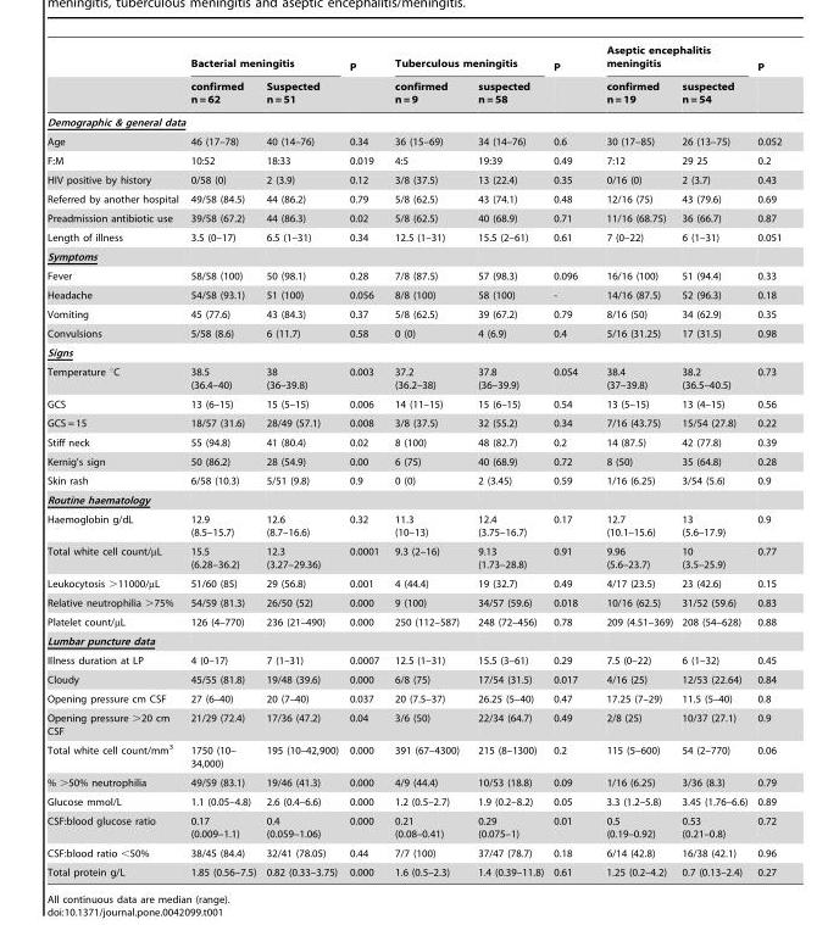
<table><thead><tr><td rowspan="2"></td><td colspan="2">Bacterial meningitis</td><td rowspan="2">P</td><td colspan="2">Tuberculous meningitis</td><td rowspan="2">P</td><td colspan="2">Aseptic encephalitis meningitis</td><td rowspan="2">P</td></tr><tr><td>confirmed n = 62</td><td>Suspected n = 51</td><td>confirmed n = 9</td><td>suspected n = 58</td><td>confirmed n = 19</td><td>suspected n = 54</td></tr></thead><tbody><tr><td colspan="10">Demographic &amp; general data</td></tr><tr><td>Age</td><td>46 (17–78)</td><td>40 (14–76)</td><td>0.34</td><td>36 (15–69)</td><td>34 (14–76)</td><td>0.6</td><td>30 (17–85)</td><td>26 (13–75)</td><td>0.052</td></tr><tr><td>F:M</td><td>10:52</td><td>18:33</td><td>0.019</td><td>4:5</td><td>19:39</td><td>0.49</td><td>7:12</td><td>29 25</td><td>0.2</td></tr><tr><td>HIV positive by history</td><td>0/58 (0)</td><td>2 (3.9)</td><td>0.12</td><td>3/8 (37.5)</td><td>13 (22.4)</td><td>0.35</td><td>0/16 (0)</td><td>2 (3.7)</td><td>0.43</td></tr><tr><td>Referred by another hospital</td><td>49/58 (84.5)</td><td>44 (86.2)</td><td>0.79</td><td>5/8 (62.5)</td><td>43 (74.1)</td><td>0.48</td><td>12/16 (75)</td><td>43 (79.6)</td><td>0.69</td></tr><tr><td>Preadmission antibiotic use</td><td>39/58 (67.2)</td><td>44 (86.3)</td><td>0.02</td><td>5/8 (62.5)</td><td>40 (68.9)</td><td>0.71</td><td>11/16 (68.75)</td><td>36 (66.7)</td><td>0.87</td></tr><tr><td>Length of illness</td><td>3.5 (0–17)</td><td>6.5 (1–31)</td><td>0.34</td><td>12.5 (1–31)</td><td>15.5 (2–61)</td><td>0.61</td><td>7 (0–22)</td><td>6 (1–31)</td><td>0.051</td></tr><tr><td colspan="10">Symptoms</td></tr><tr><td>Fever</td><td>58/58 (100)</td><td>50 (98.1)</td><td>0.28</td><td>7/8 (87.5)</td><td>57 (98.3)</td><td>0.096</td><td>16/16 (100)</td><td>51 (94.4)</td><td>0.33</td></tr><tr><td>Headache</td><td>54/58 (93.1)</td><td>51 (100)</td><td>0.056</td><td>8/8 (100)</td><td>58 (100)</td><td>-</td><td>14/16 (87.5)</td><td>52 (96.3)</td><td>0.18</td></tr><tr><td>Vomiting</td><td>45 (77.6)</td><td>43 (84.3)</td><td>0.37</td><td>5/8 (62.5)</td><td>39 (67.2)</td><td>0.79</td><td>8/16 (50)</td><td>34 (62.9)</td><td>0.35</td></tr><tr><td>Convulsions</td><td>5/58 (8.6)</td><td>6 (11.7)</td><td>0.58</td><td>0 (0)</td><td>4 (6.9)</td><td>0.4</td><td>5/16 (31.25)</td><td>17 (31.5)</td><td>0.98</td></tr><tr><td colspan="10">Signs</td></tr><tr><td>Temperature °C</td><td>38.5 (36.4–40)</td><td>38 (36–39.8)</td><td>0.003</td><td>37.2 (36.2–38)</td><td>37.8 (36–39.9)</td><td>0.054</td><td>38.4 (37–39.8)</td><td>38.2 (36.5–40.5)</td><td>0.73</td></tr><tr><td>GCS</td><td>13 (6–15)</td><td>15 (5–15)</td><td>0.006</td><td>14 (11–15)</td><td>15 (6–15)</td><td>0.54</td><td>13 (5–15)</td><td>13 (4–15)</td><td>0.56</td></tr><tr><td>GCS = 15</td><td>18/57 (31.6)</td><td>28/49 (57.1)</td><td>0.008</td><td>3/8 (37.5)</td><td>32 (55.2)</td><td>0.34</td><td>7/16 (43.75)</td><td>15/54 (27.8)</td><td>0.22</td></tr><tr><td>Stiff neck</td><td>55 (94.8)</td><td>41 (80.4)</td><td>0.02</td><td>8 (100)</td><td>48 (82.7)</td><td>0.2</td><td>14 (87.5)</td><td>42 (77.8)</td><td>0.39</td></tr><tr><td>Kernig’s sign</td><td>50 (86.2)</td><td>28 (54.9)</td><td>0.00</td><td>6 (75)</td><td>40 (68.9)</td><td>0.72</td><td>8 (50)</td><td>35 (64.8)</td><td>0.28</td></tr><tr><td>Skin rash</td><td>6/58 (10.3)</td><td>5/51 (9.8)</td><td>0.9</td><td>0 (0)</td><td>2 (3.45)</td><td>0.59</td><td>1/16 (6.25)</td><td>3/54 (5.6)</td><td>0.9</td></tr><tr><td colspan="10">Routine haematology</td></tr><tr><td>Haemoglobin g/dL</td><td>12.9 (8.5–15.7)</td><td>12.6 (8.7–16.6)</td><td>0.32</td><td>11.3 (10–13)</td><td>12.4 (3.75–16.7)</td><td>0.17</td><td>12.7 (10.1–15.6)</td><td>13 (5.6–17.9)</td><td>0.9</td></tr><tr><td>Total white cell count/µL</td><td>15.5 (6.28–36.2)</td><td>12.3 (3.27–29.36)</td><td>0.0001</td><td>9.3 (2–16)</td><td>9.13 (1.73–28.8)</td><td>0.91</td><td>9.96 (5.6–23.7)</td><td>10 (3.5–25.9)</td><td>0.77</td></tr><tr><td>Leukocytosis &gt;11000/µL</td><td>51/60 (85)</td><td>29 (56.8)</td><td>0.001</td><td>4 (44.4)</td><td>19 (32.7)</td><td>0.49</td><td>4/17 (23.5)</td><td>23 (42.6)</td><td>0.15</td></tr><tr><td>Relative neutrophilia &gt;75%</td><td>54/59 (81.3)</td><td>26/50 (52)</td><td>0.000</td><td>9 (100)</td><td>34/57 (59.6)</td><td>0.018</td><td>10/16 (62.5)</td><td>31/52 (59.6)</td><td>0.83</td></tr><tr><td>Platelet count/µL</td><td>126 (4–770)</td><td>236 (21–490)</td><td>0.000</td><td>250 (112–587)</td><td>248 (72–456)</td><td>0.78</td><td>209 (4.51–369)</td><td>208 (54–628)</td><td>0.88</td></tr><tr><td colspan="10">Lumbar puncture data</td></tr><tr><td>Illness duration at LP</td><td>4 (0–17)</td><td>7 (1–31)</td><td>0.0007</td><td>12.5 (1–31)</td><td>15.5 (3–61)</td><td>0.29</td><td>7.5 (0–22)</td><td>6 (1–32)</td><td>0.45</td></tr><tr><td>Cloudy</td><td>45/55 (81.8)</td><td>19/48 (39.6)</td><td>0.000</td><td>6/8 (75)</td><td>17/54 (31.5)</td><td>0.017</td><td>4/16 (25)</td><td>12/53 (22.64)</td><td>0.84</td></tr><tr><td>Opening pressure cm CSF</td><td>27 (6–40)</td><td>20 (7–40)</td><td>0.037</td><td>20 (7.5–37)</td><td>26.25 (5–40)</td><td>0.47</td><td>17.25 (7–29)</td><td>11.5 (5–40)</td><td>0.8</td></tr><tr><td>Opening pressure &gt;20 cm CSF</td><td>21/29 (72.4)</td><td>17/36 (47.2)</td><td>0.04</td><td>3/6 (50)</td><td>22/34 (64.7)</td><td>0.49</td><td>2/8 (25)</td><td>10/37 (27.1)</td><td>0.9</td></tr><tr><td>Total white cell count/mm<sup>3</sup></td><td>1750 (10– 34,000)</td><td>195 (10–42,900)</td><td>0.000</td><td>391 (67–4300)</td><td>215 (8–1300)</td><td>0.2</td><td>115 (5–600)</td><td>54 (2–770)</td><td>0.06</td></tr><tr><td>% &gt;50% neutrophilia</td><td>49/59 (83.1)</td><td>19/46 (41.3)</td><td>0.000</td><td>4/9 (44.4)</td><td>10/53 (18.8)</td><td>0.09</td><td>1/16 (6.25)</td><td>3/36 (8.3)</td><td>0.79</td></tr><tr><td>Glucose mmol/L</td><td>1.1 (0.05–4.8)</td><td>2.6 (0.4–6.6)</td><td>0.000</td><td>1.2 (0.5–2.7)</td><td>1.9 (0.2–8.2)</td><td>0.05</td><td>3.3 (1.2–5.8)</td><td>3.45 (1.76–6.6)</td><td>0.89</td></tr><tr><td>CSF:blood glucose ratio</td><td>0.17 (0.009–1.1)</td><td>0.4 (0.059–1.06)</td><td>0.000</td><td>0.21 (0.08–0.41)</td><td>0.29 (0.075–1)</td><td>0.01</td><td>0.5 (0.19–0.92)</td><td>0.53 (0.21–0.8)</td><td>0.72</td></tr><tr><td>CSF:blood ratio &lt;50%</td><td>38/45 (84.4)</td><td>32/41 (78.05)</td><td>0.44</td><td>7/7 (100)</td><td>37/47 (78.7)</td><td>0.18</td><td>6/14 (42.8)</td><td>16/38 (42.1)</td><td>0.96</td></tr><tr><td>Total protein g/L</td><td>1.85 (0.56–7.5)</td><td>0.82 (0.33–3.75)</td><td>0.000</td><td>1.6 (0.5–2.3)</td><td>1.4 (0.39–11.8)</td><td>0.61</td><td>1.25 (0.2–4.2)</td><td>0.7 (0.13–2.4)</td><td>0.27</td></tr></tbody></table>